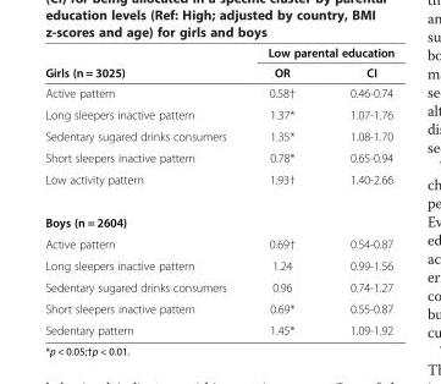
<table><thead><tr><td rowspan="2">Girls (n = 3025)</td><td colspan="2">Low parental education</td></tr><tr><td>OR</td><td>CI</td></tr></thead><tbody><tr><td>Active pattern</td><td>0.58†</td><td>0.46-0.74</td></tr><tr><td>Long sleepers inactive pattern</td><td>1.37*</td><td>1.07-1.76</td></tr><tr><td>Sedentary sugared drinks consumers</td><td>1.35*</td><td>1.08-1.70</td></tr><tr><td>Short sleepers inactive pattern</td><td>0.78*</td><td>0.65-0.94</td></tr><tr><td>Low activity pattern</td><td>1.93†</td><td>1.40-2.66</td></tr><tr><td colspan="3">Boys (n = 2604)</td></tr><tr><td>Active pattern</td><td>0.69†</td><td>0.54-0.87</td></tr><tr><td>Long sleepers inactive pattern</td><td>1.24</td><td>0.99-1.56</td></tr><tr><td>Sedentary sugared drinks consumers</td><td>0.96</td><td>0.74-1.27</td></tr><tr><td>Short sleepers inactive pattern</td><td>0.69*</td><td>0.55-0.87</td></tr><tr><td>Sedentary pattern</td><td>1.45*</td><td>1.09-1.92</td></tr></tbody></table>